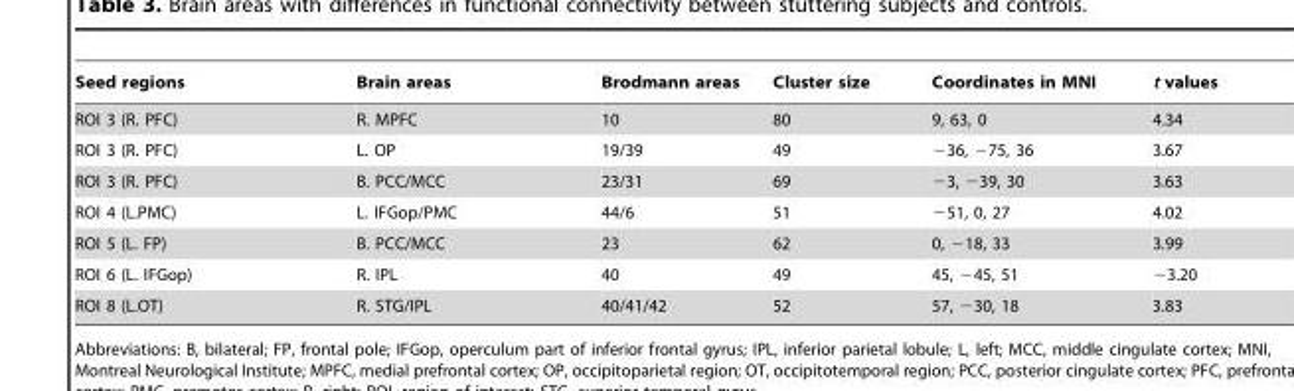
<table><thead><tr><td>Seed regions</td><td>Brain areas</td><td>Brodmann areas</td><td>Cluster size</td><td>Coordinates in MNI</td><td>t values</td></tr></thead><tbody><tr><td>ROI 3 (R. PFC)</td><td>R. MPFC</td><td>10</td><td>80</td><td>9, 63, 0</td><td>4.34</td></tr><tr><td>ROI 3 (R. PFC)</td><td>L. OP</td><td>19/39</td><td>49</td><td>−36, −75, 36</td><td>3.67</td></tr><tr><td>ROI 3 (R. PFC)</td><td>B. PCC/MCC</td><td>23/31</td><td>69</td><td>−3, −39, 30</td><td>3.63</td></tr><tr><td>ROI 4 (L.PMC)</td><td>L. IFGop/PMC</td><td>44/6</td><td>51</td><td>−51, 0, 27</td><td>4.02</td></tr><tr><td>ROI 5 (L. FP)</td><td>B. PCC/MCC</td><td>23</td><td>62</td><td>0, −18, 33</td><td>3.99</td></tr><tr><td>ROI 6 (L. IFGop)</td><td>R. IPL</td><td>40</td><td>49</td><td>45, −45, 51</td><td>−3.20</td></tr><tr><td>ROI 8 (L.OT)</td><td>R. STG/IPL</td><td>40/41/42</td><td>52</td><td>57, −30, 18</td><td>3.83</td></tr></tbody></table>